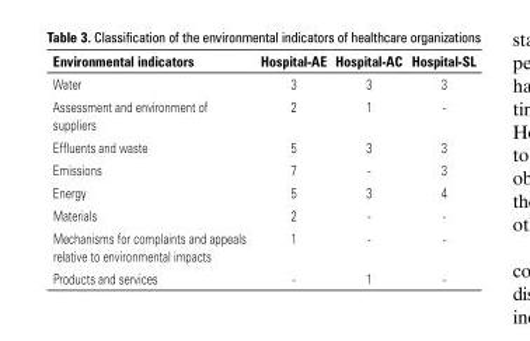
<table><thead><tr><td>Environmental indicators</td><td>Hospital-AE</td><td>Hospital-AC</td><td>Hospital-SL</td></tr></thead><tbody><tr><td>Water</td><td>3</td><td>3</td><td>3</td></tr><tr><td>Assessment and environment of suppliers</td><td>2</td><td>1</td><td>-</td></tr><tr><td>Effluents and waste</td><td>5</td><td>3</td><td>3</td></tr><tr><td>Emissions</td><td>7</td><td>-</td><td>3</td></tr><tr><td>Energy</td><td>5</td><td>3</td><td>4</td></tr><tr><td>Materials</td><td>2</td><td>-</td><td>-</td></tr><tr><td>Mechanisms for complaints and appeals relative to environmental impacts</td><td>1</td><td>-</td><td>-</td></tr><tr><td>Products and services</td><td>-</td><td>1</td><td>-</td></tr></tbody></table>